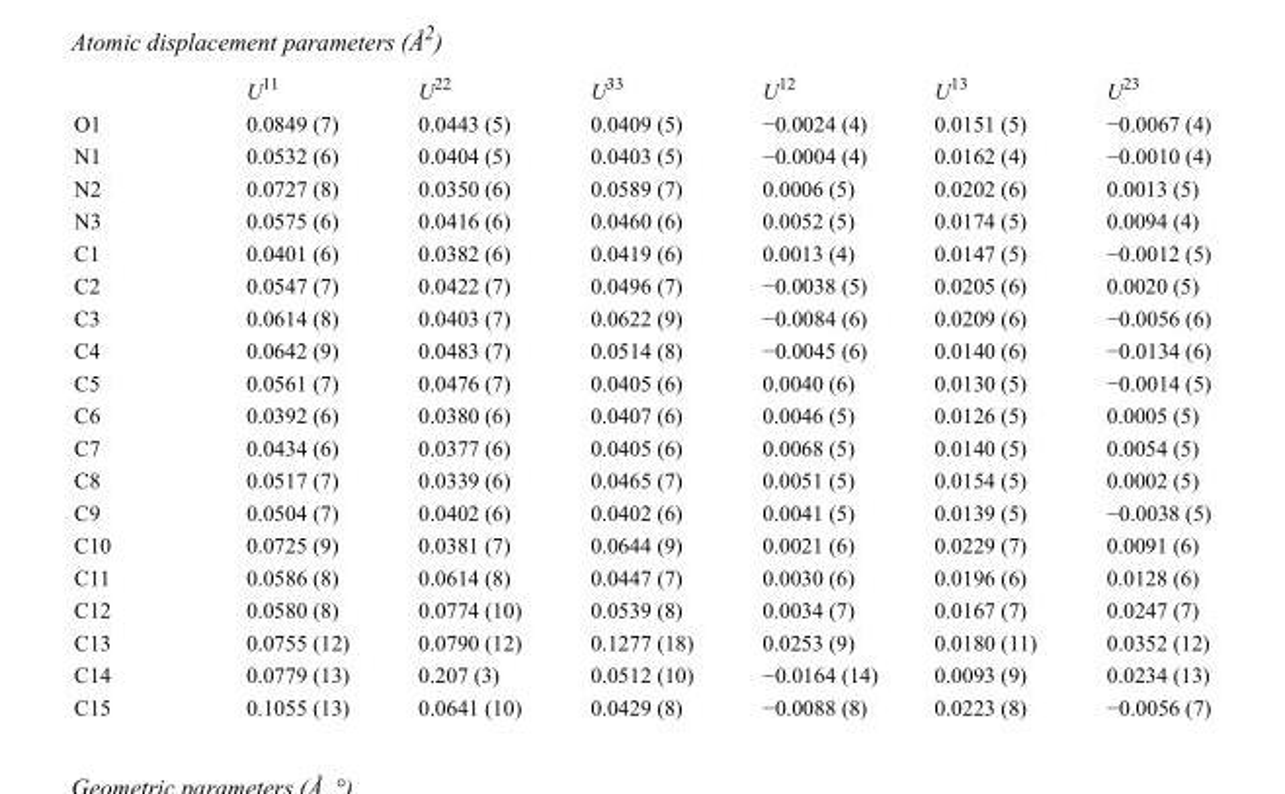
<table><thead><tr><td></td><td>U<sup>11</sup></td><td>U<sup>22</sup></td><td>U<sup>33</sup></td><td>U<sup>12</sup></td><td>U<sup>13</sup></td><td>U<sup>23</sup></td></tr></thead><tbody><tr><td>O1</td><td>0.0849 (7)</td><td>0.0443 (5)</td><td>0.0409 (5)</td><td>−0.0024 (4)</td><td>0.0151 (5)</td><td>−0.0067 (4)</td></tr><tr><td>N1</td><td>0.0532 (6)</td><td>0.0404 (5)</td><td>0.0403 (5)</td><td>−0.0004 (4)</td><td>0.0162 (4)</td><td>−0.0010 (4)</td></tr><tr><td>N2</td><td>0.0727 (8)</td><td>0.0350 (6)</td><td>0.0589 (7)</td><td>0.0006 (5)</td><td>0.0202 (6)</td><td>0.0013 (5)</td></tr><tr><td>N3</td><td>0.0575 (6)</td><td>0.0416 (6)</td><td>0.0460 (6)</td><td>0.0052 (5)</td><td>0.0174 (5)</td><td>0.0094 (4)</td></tr><tr><td>C1</td><td>0.0401 (6)</td><td>0.0382 (6)</td><td>0.0419 (6)</td><td>0.0013 (4)</td><td>0.0147 (5)</td><td>−0.0012 (5)</td></tr><tr><td>C2</td><td>0.0547 (7)</td><td>0.0422 (7)</td><td>0.0496 (7)</td><td>−0.0038 (5)</td><td>0.0205 (6)</td><td>0.0020 (5)</td></tr><tr><td>C3</td><td>0.0614 (8)</td><td>0.0403 (7)</td><td>0.0622 (9)</td><td>−0.0084 (6)</td><td>0.0209 (6)</td><td>−0.0056 (6)</td></tr><tr><td>C4</td><td>0.0642 (9)</td><td>0.0483 (7)</td><td>0.0514 (8)</td><td>−0.0045 (6)</td><td>0.0140 (6)</td><td>−0.0134 (6)</td></tr><tr><td>C5</td><td>0.0561 (7)</td><td>0.0476 (7)</td><td>0.0405 (6)</td><td>0.0040 (6)</td><td>0.0130 (5)</td><td>−0.0014 (5)</td></tr><tr><td>C6</td><td>0.0392 (6)</td><td>0.0380 (6)</td><td>0.0407 (6)</td><td>0.0046 (5)</td><td>0.0126 (5)</td><td>0.0005 (5)</td></tr><tr><td>C7</td><td>0.0434 (6)</td><td>0.0377 (6)</td><td>0.0405 (6)</td><td>0.0068 (5)</td><td>0.0140 (5)</td><td>0.0054 (5)</td></tr><tr><td>C8</td><td>0.0517 (7)</td><td>0.0339 (6)</td><td>0.0465 (7)</td><td>0.0051 (5)</td><td>0.0154 (5)</td><td>0.0002 (5)</td></tr><tr><td>C9</td><td>0.0504 (7)</td><td>0.0402 (6)</td><td>0.0402 (6)</td><td>0.0041 (5)</td><td>0.0139 (5)</td><td>−0.0038 (5)</td></tr><tr><td>C10</td><td>0.0725 (9)</td><td>0.0381 (7)</td><td>0.0644 (9)</td><td>0.0021 (6)</td><td>0.0229 (7)</td><td>0.0091 (6)</td></tr><tr><td>C11</td><td>0.0586 (8)</td><td>0.0614 (8)</td><td>0.0447 (7)</td><td>0.0030 (6)</td><td>0.0196 (6)</td><td>0.0128 (6)</td></tr><tr><td>C12</td><td>0.0580 (8)</td><td>0.0774 (10)</td><td>0.0539 (8)</td><td>0.0034 (7)</td><td>0.0167 (7)</td><td>0.0247 (7)</td></tr><tr><td>C13</td><td>0.0755 (12)</td><td>0.0790 (12)</td><td>0.1277 (18)</td><td>0.0253 (9)</td><td>0.0180 (11)</td><td>0.0352 (12)</td></tr><tr><td>C14</td><td>0.0779 (13)</td><td>0.207 (3)</td><td>0.0512 (10)</td><td>−0.0164 (14)</td><td>0.0093 (9)</td><td>0.0234 (13)</td></tr><tr><td>C15</td><td>0.1055 (13)</td><td>0.0641 (10)</td><td>0.0429 (8)</td><td>−0.0088 (8)</td><td>0.0223 (8)</td><td>−0.0056 (7)</td></tr></tbody></table>